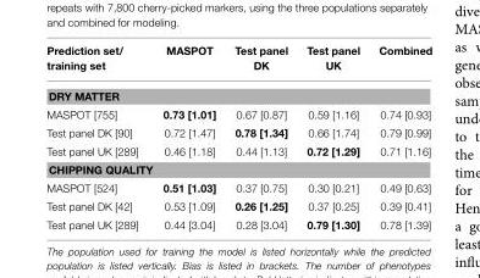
<table><thead><tr><td>Prediction set/ training set</td><td>MASPOT</td><td>Test panel DK</td><td>Test panel UK</td><td>Combined</td></tr></thead><tbody><tr><td colspan="5">DRY MATTER</td></tr><tr><td>MASPOT [755]</td><td>0.73 [1.01]</td><td>0.67 [0.87]</td><td>0.59 [1.16]</td><td>0.74 [0.93]</td></tr><tr><td>Test panel DK [90]</td><td>0.72 [1.47]</td><td>0.78 [1.34]</td><td>0.66 [1.74]</td><td>0.79 [0.99]</td></tr><tr><td>Test panel UK [289]</td><td>0.46 [1.18]</td><td>0.44 [1.13]</td><td>0.72 [1.29]</td><td>0.71 [1.16]</td></tr><tr><td colspan="5">CHIPPING QUALITY</td></tr><tr><td>MASPOT [524]</td><td>0.51 [1.03]</td><td>0.37 [0.75]</td><td>0.30 [0.21]</td><td>0.49 [0.63]</td></tr><tr><td>Test panel DK [42]</td><td>0.53 [1.09]</td><td>0.26 [1.25]</td><td>0.37 [0.25]</td><td>0.39 [0.41]</td></tr><tr><td>Test panel UK [289]</td><td>0.44 [3.04]</td><td>0.28 [3.04]</td><td>0.79 [1.30]</td><td>0.78 [1.39]</td></tr></tbody></table>